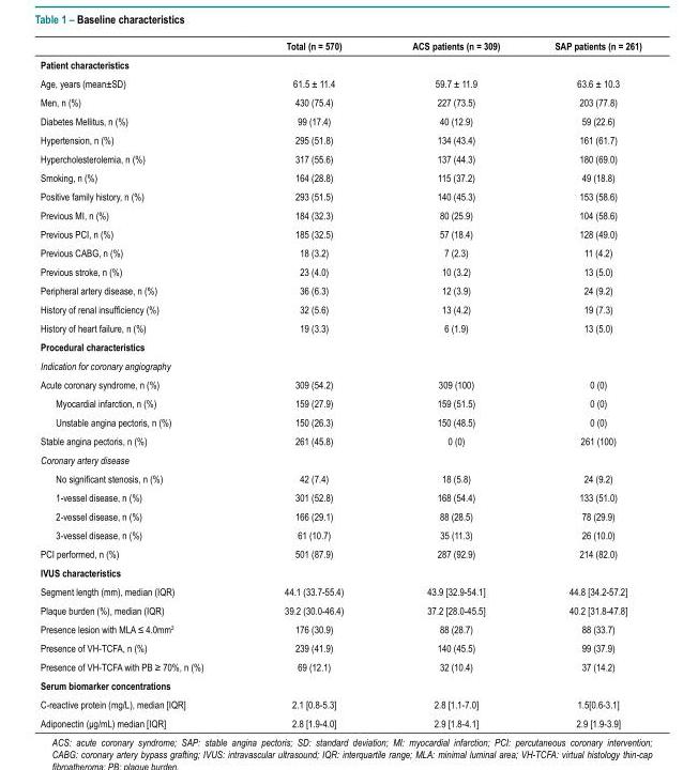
<table><thead><tr><td></td><td>Total (n = 570)</td><td>ACS patients (n = 309)</td><td>SAP patients (n = 261)</td></tr></thead><tbody><tr><td colspan="4">Patient characteristics</td></tr><tr><td>Age, years (mean±SD)</td><td>61.5 ± 11.4</td><td>59.7 ± 11.9</td><td>63.6 ± 10.3</td></tr><tr><td>Men, n (%)</td><td>430 (75.4)</td><td>227 (73.5)</td><td>203 (77.8)</td></tr><tr><td>Diabetes Mellitus, n (%)</td><td>99 (17.4)</td><td>40 (12.9)</td><td>59 (22.6)</td></tr><tr><td>Hypertension, n (%)</td><td>295 (51.8)</td><td>134 (43.4)</td><td>161 (61.7)</td></tr><tr><td>Hypercholesterolemia, n (%)</td><td>317 (55.6)</td><td>137 (44.3)</td><td>180 (69.0)</td></tr><tr><td>Smoking, n (%)</td><td>164 (28.8)</td><td>115 (37.2)</td><td>49 (18.8)</td></tr><tr><td>Positive family history, n (%)</td><td>293 (51.5)</td><td>140 (45.3)</td><td>153 (58.6)</td></tr><tr><td>Previous MI, n (%)</td><td>184 (32.3)</td><td>80 (25.9)</td><td>104 (58.6)</td></tr><tr><td>Previous PCI, n (%)</td><td>185 (32.5)</td><td>57 (18.4)</td><td>128 (49.0)</td></tr><tr><td>Previous CABG, n (%)</td><td>18 (3.2)</td><td>7 (2.3)</td><td>11 (4.2)</td></tr><tr><td>Previous stroke, n (%)</td><td>23 (4.0)</td><td>10 (3.2)</td><td>13 (5.0)</td></tr><tr><td>Peripheral artery disease, n (%)</td><td>36 (6.3)</td><td>12 (3.9)</td><td>24 (9.2)</td></tr><tr><td>History of renal insufficiency (%)</td><td>32 (5.6)</td><td>13 (4.2)</td><td>19 (7.3)</td></tr><tr><td>History of heart failure, n (%)</td><td>19 (3.3)</td><td>6 (1.9)</td><td>13 (5.0)</td></tr><tr><td colspan="4">Procedural characteristics</td></tr><tr><td colspan="4">Indication for coronary angiography</td></tr><tr><td>Acute coronary syndrome, n (%)</td><td>309 (54.2)</td><td>309 (100)</td><td>0 (0)</td></tr><tr><td>Myocardial infarction, n (%)</td><td>159 (27.9)</td><td>159 (51.5)</td><td>0 (0)</td></tr><tr><td>Unstable angina pectoris, n (%)</td><td>150 (26.3)</td><td>150 (48.5)</td><td>0 (0)</td></tr><tr><td>Stable angina pectoris, n (%)</td><td>261 (45.8)</td><td>0 (0)</td><td>261 (100)</td></tr><tr><td colspan="4">Coronary artery disease</td></tr><tr><td>No significant stenosis, n (%)</td><td>42 (7.4)</td><td>18 (5.8)</td><td>24 (9.2)</td></tr><tr><td>1-vessel disease, n (%)</td><td>301 (52.8)</td><td>168 (54.4)</td><td>133 (51.0)</td></tr><tr><td>2-vessel disease, n (%)</td><td>166 (29.1)</td><td>88 (28.5)</td><td>78 (29.9)</td></tr><tr><td>3-vessel disease, n (%)</td><td>61 (10.7)</td><td>35 (11.3)</td><td>26 (10.0)</td></tr><tr><td>PCI performed, n (%)</td><td>501 (87.9)</td><td>287 (92.9)</td><td>214 (82.0)</td></tr><tr><td colspan="4">IVUS characteristics</td></tr><tr><td>Segment length (mm), median (IQR)</td><td>44.1 (33.7-55.4)</td><td>43.9 [32.9-54.1]</td><td>44.8 [34.2-57.2]</td></tr><tr><td>Plaque burden (%), median (IQR)</td><td>39.2 (30.0-46.4)</td><td>37.2 [28.0-45.5]</td><td>40.2 [31.8-47.8]</td></tr><tr><td>Presence lesion with MLA ≤ 4.0mm<sup>2</sup></td><td>176 (30.9)</td><td>88 (28.7)</td><td>88 (33.7)</td></tr><tr><td>Presence of VH-TCFA, n (%)</td><td>239 (41.9)</td><td>140 (45.5)</td><td>99 (37.9)</td></tr><tr><td>Presence of VH-TCFA with PB ≥ 70%, n (%)</td><td>69 (12.1)</td><td>32 (10.4)</td><td>37 (14.2)</td></tr><tr><td colspan="4">Serum biomarker concentrations</td></tr><tr><td>C-reactive protein (mg/L), median [IQR]</td><td>2.1 [0.8-5.3]</td><td>2.8 [1.1-7.0]</td><td>1.5[0.6-3.1]</td></tr><tr><td>Adiponectin (μg/mL) median [IQR]</td><td>2.8 [1.9-4.0]</td><td>2.9 [1.8-4.1]</td><td>2.9 [1.9-3.9]</td></tr></tbody></table>